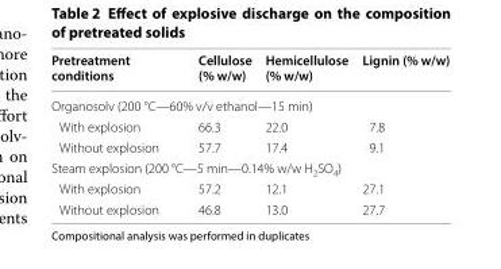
<table><thead><tr><td>Pretreatment conditions</td><td>Cellulose (% w/w)</td><td>Hemicellulose (% w/w)</td><td>Lignin (% w/w)</td></tr></thead><tbody><tr><td colspan="4">Organosolv (200 °C—60% v/v ethanol—15 min)</td></tr><tr><td>With explosion</td><td>66.3</td><td>22.0</td><td>7.8</td></tr><tr><td>Without explosion</td><td>57.7</td><td>17.4</td><td>9.1</td></tr><tr><td colspan="4">Steam explosion (200 °C—5 min—0.14% w/w H<sub>2</sub>SO<sub>4</sub>)</td></tr><tr><td>With explosion</td><td>57.2</td><td>12.1</td><td>27.1</td></tr><tr><td>Without explosion</td><td>46.8</td><td>13.0</td><td>27.7</td></tr></tbody></table>